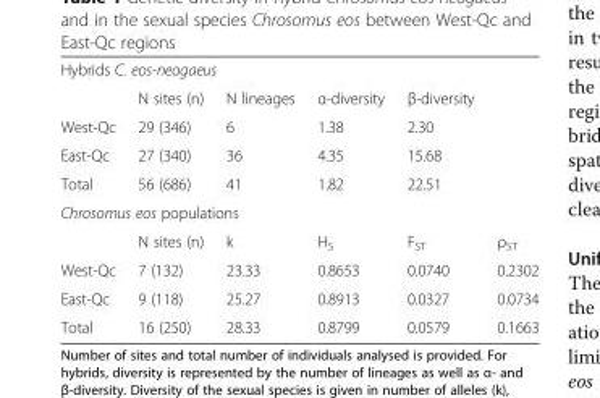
<table><tbody><tr><td colspan="6">Hybrids C. eos-neogaeus</td></tr><tr><td></td><td>N sites (n)</td><td>N lineages</td><td>α-diversity</td><td>β-diversity</td><td></td></tr><tr><td>West-Qc</td><td>29 (346)</td><td>6</td><td>1.38</td><td>2.30</td><td></td></tr><tr><td>East-Qc</td><td>27 (340)</td><td>36</td><td>4.35</td><td>15.68</td><td></td></tr><tr><td>Total</td><td>56 (686)</td><td>41</td><td>1.82</td><td>22.51</td><td></td></tr><tr><td colspan="6">Chrosomus eos populations</td></tr><tr><td></td><td>N sites (n)</td><td>k</td><td>H<sub>S</sub></td><td>F<sub>ST</sub></td><td>ρ<sub>ST</sub></td></tr><tr><td>West-Qc</td><td>7 (132)</td><td>23.33</td><td>0.8653</td><td>0.0740</td><td>0.2302</td></tr><tr><td>East-Qc</td><td>9 (118)</td><td>25.27</td><td>0.8913</td><td>0.0327</td><td>0.0734</td></tr><tr><td>Total</td><td>16 (250)</td><td>28.33</td><td>0.8799</td><td>0.0579</td><td>0.1663</td></tr></tbody></table>